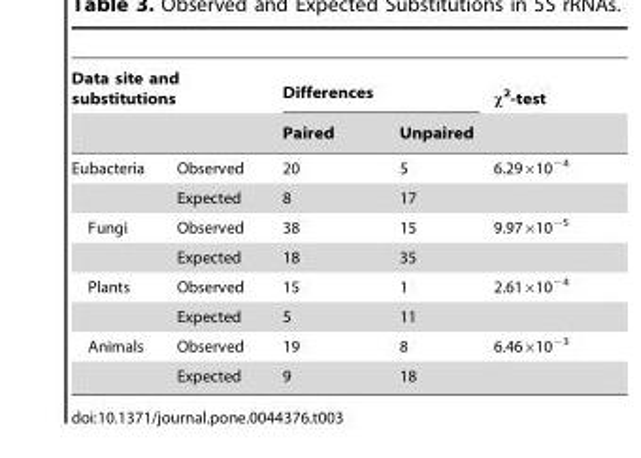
<table><thead><tr><td colspan="2">Data site and substitutions</td><td colspan="2">Differences</td><td rowspan="2">χ<sup>2</sup>-test</td></tr><tr><td></td><td></td><td>Paired</td><td>Unpaired</td></tr></thead><tbody><tr><td rowspan="2">Eubacteria</td><td>Observed</td><td>20</td><td>5</td><td>6.29×10<sup>−4</sup></td></tr><tr><td>Expected</td><td>8</td><td>17</td><td></td></tr><tr><td rowspan="2">Fungi</td><td>Observed</td><td>38</td><td>15</td><td>9.97×10<sup>−5</sup></td></tr><tr><td>Expected</td><td>18</td><td>35</td><td></td></tr><tr><td rowspan="2">Plants</td><td>Observed</td><td>15</td><td>1</td><td>2.61×10<sup>−4</sup></td></tr><tr><td>Expected</td><td>5</td><td>11</td><td></td></tr><tr><td rowspan="2">Animals</td><td>Observed</td><td>19</td><td>8</td><td>6.46×10<sup>−3</sup></td></tr><tr><td>Expected</td><td>9</td><td>18</td><td></td></tr></tbody></table>